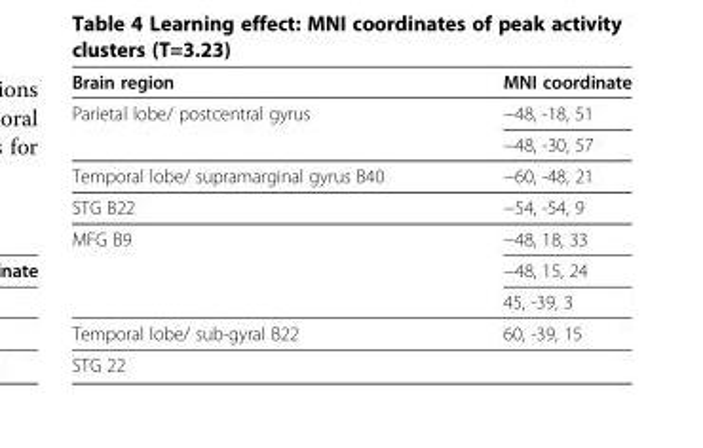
<table><thead><tr><td>Brain region</td><td>MNI coordinate</td></tr></thead><tbody><tr><td rowspan="2">Parietal lobe/ postcentral gyrus</td><td>−48, -18, 51</td></tr><tr><td>−48, -30, 57</td></tr><tr><td>Temporal lobe/ supramarginal gyrus B40</td><td>−60, -48, 21</td></tr><tr><td>STG B22</td><td>−54, -54, 9</td></tr><tr><td rowspan="3">MFG B9</td><td>−48, 18, 33</td></tr><tr><td>−48, 15, 24</td></tr><tr><td>45, -39, 3</td></tr><tr><td>Temporal lobe/ sub-gyral B22</td><td>60, -39, 15</td></tr><tr><td>STG 22</td><td></td></tr></tbody></table>